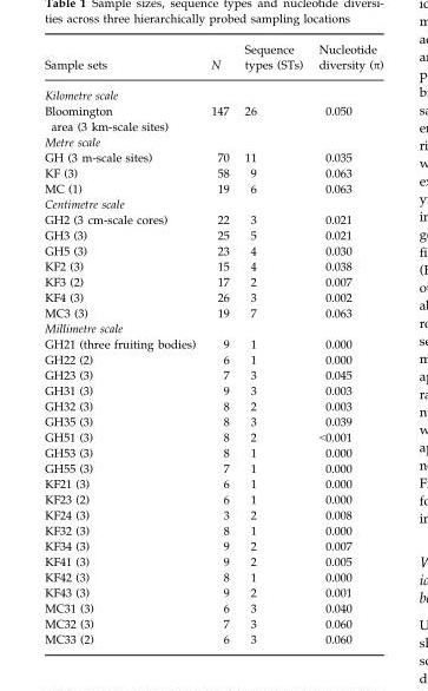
<table><thead><tr><td>Sample sets</td><td>N</td><td>Sequence types (STs)</td><td>Nucleotide diversity (π)</td></tr></thead><tbody><tr><td colspan="4">Kilometre scale</td></tr><tr><td>Bloomington area (3 km-scale sites)</td><td>147</td><td>26</td><td>0.050</td></tr><tr><td colspan="4">Metre scale</td></tr><tr><td>GH (3 m-scale sites)</td><td>70</td><td>11</td><td>0.035</td></tr><tr><td>KF (3)</td><td>58</td><td>9</td><td>0.063</td></tr><tr><td>MC (1)</td><td>19</td><td>6</td><td>0.063</td></tr><tr><td colspan="4">Centimetre scale</td></tr><tr><td>GH2 (3 cm-scale cores)</td><td>22</td><td>3</td><td>0.021</td></tr><tr><td>GH3 (3)</td><td>25</td><td>5</td><td>0.021</td></tr><tr><td>GH5 (3)</td><td>23</td><td>4</td><td>0.030</td></tr><tr><td>KF2 (3)</td><td>15</td><td>4</td><td>0.038</td></tr><tr><td>KF3 (2)</td><td>17</td><td>2</td><td>0.007</td></tr><tr><td>KF4 (3)</td><td>26</td><td>3</td><td>0.002</td></tr><tr><td>MC3 (3)</td><td>19</td><td>7</td><td>0.063</td></tr><tr><td colspan="4">Millimetre scale</td></tr><tr><td>GH21 (three fruiting bodies)</td><td>9</td><td>1</td><td>0.000</td></tr><tr><td>GH22 (2)</td><td>6</td><td>1</td><td>0.000</td></tr><tr><td>GH23 (3)</td><td>7</td><td>3</td><td>0.045</td></tr><tr><td>GH31 (3)</td><td>9</td><td>3</td><td>0.003</td></tr><tr><td>GH32 (3)</td><td>8</td><td>2</td><td>0.003</td></tr><tr><td>GH35 (3)</td><td>8</td><td>3</td><td>0.039</td></tr><tr><td>GH51 (3)</td><td>8</td><td>2</td><td>&lt;0.001</td></tr><tr><td>GH53 (3)</td><td>8</td><td>1</td><td>0.000</td></tr><tr><td>GH55 (3)</td><td>7</td><td>1</td><td>0.000</td></tr><tr><td>KF21 (3)</td><td>6</td><td>1</td><td>0.000</td></tr><tr><td>KF23 (2)</td><td>6</td><td>1</td><td>0.000</td></tr><tr><td>KF24 (3)</td><td>3</td><td>2</td><td>0.008</td></tr><tr><td>KF32 (3)</td><td>8</td><td>1</td><td>0.000</td></tr><tr><td>KF34 (3)</td><td>9</td><td>2</td><td>0.007</td></tr><tr><td>KF41 (3)</td><td>9</td><td>2</td><td>0.005</td></tr><tr><td>KF42 (3)</td><td>8</td><td>1</td><td>0.000</td></tr><tr><td>KF43 (3)</td><td>9</td><td>2</td><td>0.001</td></tr><tr><td>MC31 (3)</td><td>6</td><td>3</td><td>0.040</td></tr><tr><td>MC32 (3)</td><td>7</td><td>3</td><td>0.060</td></tr><tr><td>MC33 (2)</td><td>6</td><td>3</td><td>0.060</td></tr></tbody></table>